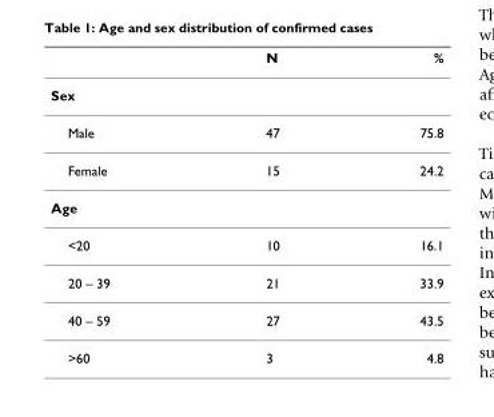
<table><thead><tr><td></td><td>N</td><td>%</td></tr></thead><tbody><tr><td colspan="3">Sex</td></tr><tr><td>Male</td><td>47</td><td>75.8</td></tr><tr><td>Female</td><td>15</td><td>24.2</td></tr><tr><td colspan="3">Age</td></tr><tr><td>&lt;20</td><td>10</td><td>16.1</td></tr><tr><td>20 – 39</td><td>21</td><td>33.9</td></tr><tr><td>40 – 59</td><td>27</td><td>43.5</td></tr><tr><td>&gt;60</td><td>3</td><td>4.8</td></tr></tbody></table>